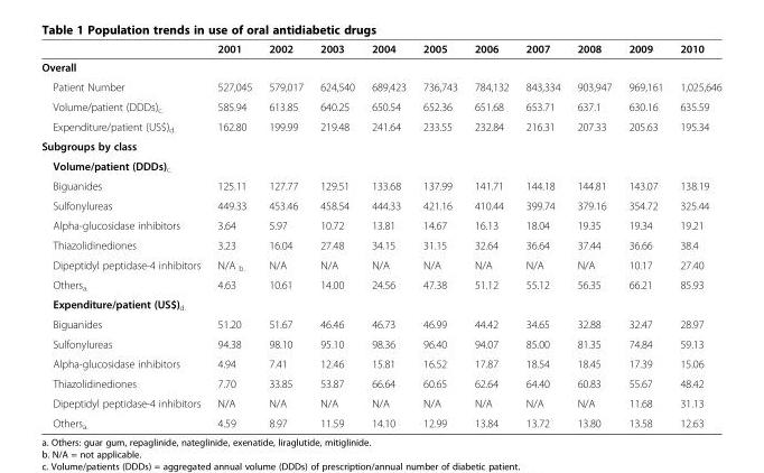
<table><thead><tr><td></td><td>2001</td><td>2002</td><td>2003</td><td>2004</td><td>2005</td><td>2006</td><td>2007</td><td>2008</td><td>2009</td><td>2010</td></tr></thead><tbody><tr><td colspan="11">Overall</td></tr><tr><td>Patient Number</td><td>527,045</td><td>579,017</td><td>624,540</td><td>689,423</td><td>736,743</td><td>784,132</td><td>843,334</td><td>903,947</td><td>969,161</td><td>1,025,646</td></tr><tr><td>Volume/patient (DDDs)<sub>c.</sub></td><td>585.94</td><td>613.85</td><td>640.25</td><td>650.54</td><td>652.36</td><td>651.68</td><td>653.71</td><td>637.1</td><td>630.16</td><td>635.59</td></tr><tr><td>Expenditure/patient (US$)<sub>d.</sub></td><td>162.80</td><td>199.99</td><td>219.48</td><td>241.64</td><td>233.55</td><td>232.84</td><td>216.31</td><td>207.33</td><td>205.63</td><td>195.34</td></tr><tr><td colspan="11">Subgroups by class</td></tr><tr><td colspan="11">Volume/patient (DDDs)<sub>c.</sub></td></tr><tr><td>Biguanides</td><td>125.11</td><td>127.77</td><td>129.51</td><td>133.68</td><td>137.99</td><td>141.71</td><td>144.18</td><td>144.81</td><td>143.07</td><td>138.19</td></tr><tr><td>Sulfonylureas</td><td>449.33</td><td>453.46</td><td>458.54</td><td>444.33</td><td>421.16</td><td>410.44</td><td>399.74</td><td>379.16</td><td>354.72</td><td>325.44</td></tr><tr><td>Alpha-glucosidase inhibitors</td><td>3.64</td><td>5.97</td><td>10.72</td><td>13.81</td><td>14.67</td><td>16.13</td><td>18.04</td><td>19.35</td><td>19.34</td><td>19.21</td></tr><tr><td>Thiazolidinediones</td><td>3.23</td><td>16.04</td><td>27.48</td><td>34.15</td><td>31.15</td><td>32.64</td><td>36.64</td><td>37.44</td><td>36.66</td><td>38.4</td></tr><tr><td>Dipeptidyl peptidase-4 inhibitors</td><td>N/A <sub>b.</sub></td><td>N/A</td><td>N/A</td><td>N/A</td><td>N/A</td><td>N/A</td><td>N/A</td><td>N/A</td><td>10.17</td><td>27.40</td></tr><tr><td>Others<sub>a.</sub></td><td>4.63</td><td>10.61</td><td>14.00</td><td>24.56</td><td>47.38</td><td>51.12</td><td>55.12</td><td>56.35</td><td>66.21</td><td>85.93</td></tr><tr><td colspan="11">Expenditure/patient (US$)<sub>d.</sub></td></tr><tr><td>Biguanides</td><td>51.20</td><td>51.67</td><td>46.46</td><td>46.73</td><td>46.99</td><td>44.42</td><td>34.65</td><td>32.88</td><td>32.47</td><td>28.97</td></tr><tr><td>Sulfonylureas</td><td>94.38</td><td>98.10</td><td>95.10</td><td>98.36</td><td>96.40</td><td>94.07</td><td>85.00</td><td>81.35</td><td>74.84</td><td>59.13</td></tr><tr><td>Alpha-glucosidase inhibitors</td><td>4.94</td><td>7.41</td><td>12.46</td><td>15.81</td><td>16.52</td><td>17.87</td><td>18.54</td><td>18.45</td><td>17.39</td><td>15.06</td></tr><tr><td>Thiazolidinediones</td><td>7.70</td><td>33.85</td><td>53.87</td><td>66.64</td><td>60.65</td><td>62.64</td><td>64.40</td><td>60.83</td><td>55.67</td><td>48.42</td></tr><tr><td>Dipeptidyl peptidase-4 inhibitors</td><td>N/A</td><td>N/A</td><td>N/A</td><td>N/A</td><td>N/A</td><td>N/A</td><td>N/A</td><td>N/A</td><td>11.68</td><td>31.13</td></tr><tr><td>Others<sub>a.</sub></td><td>4.59</td><td>8.97</td><td>11.59</td><td>14.10</td><td>12.99</td><td>13.84</td><td>13.72</td><td>13.80</td><td>13.58</td><td>12.63</td></tr></tbody></table>